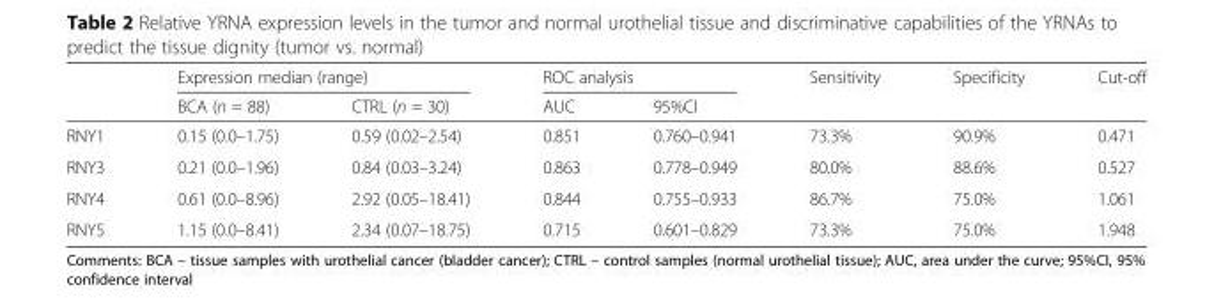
<table><thead><tr><td rowspan="2"></td><td colspan="2">Expression median (range)</td><td colspan="2">ROC analysis</td><td rowspan="2">Sensitivity</td><td rowspan="2">Specificity</td><td rowspan="2">Cut-off</td></tr><tr><td>BCA (n = 88)</td><td>CTRL (n = 30)</td><td>AUC</td><td>95%CI</td></tr></thead><tbody><tr><td>RNY1</td><td>0.15 (0.0–1.75)</td><td>0.59 (0.02–2.54)</td><td>0.851</td><td>0.760–0.941</td><td>73.3%</td><td>90.9%</td><td>0.471</td></tr><tr><td>RNY3</td><td>0.21 (0.0–1.96)</td><td>0.84 (0.03–3.24)</td><td>0.863</td><td>0.778–0.949</td><td>80.0%</td><td>88.6%</td><td>0.527</td></tr><tr><td>RNY4</td><td>0.61 (0.0–8.96)</td><td>2.92 (0.05–18.41)</td><td>0.844</td><td>0.755–0.933</td><td>86.7%</td><td>75.0%</td><td>1.061</td></tr><tr><td>RNY5</td><td>1.15 (0.0–8.41)</td><td>2.34 (0.07–18.75)</td><td>0.715</td><td>0.601–0.829</td><td>73.3%</td><td>75.0%</td><td>1.948</td></tr></tbody></table>